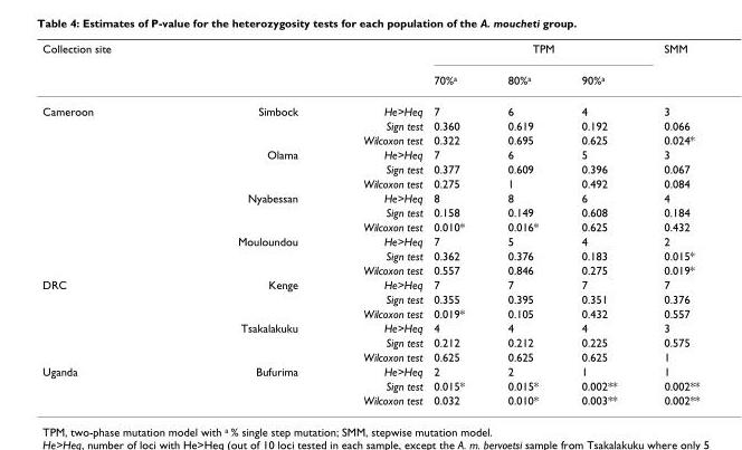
<table><thead><tr><td rowspan="2">Collection site</td><td rowspan="2"></td><td rowspan="2"></td><td colspan="3">TPM</td><td rowspan="2">SMM</td></tr><tr><td>70%<sup>a</sup></td><td>80%<sup>a</sup></td><td>90%<sup>a</sup></td></tr></thead><tbody><tr><td rowspan="12">Cameroon</td><td>Simbock</td><td>He&gt;Heq</td><td>7</td><td>6</td><td>4</td><td>3</td></tr><tr><td></td><td>Sign test</td><td>0.360</td><td>0.619</td><td>0.192</td><td>0.066</td></tr><tr><td></td><td>Wilcoxon test</td><td>0.322</td><td>0.695</td><td>0.625</td><td>0.024*</td></tr><tr><td>Olama</td><td>He&gt;Heq</td><td>7</td><td>6</td><td>5</td><td>3</td></tr><tr><td></td><td>Sign test</td><td>0.377</td><td>0.609</td><td>0.396</td><td>0.067</td></tr><tr><td></td><td>Wilcoxon test</td><td>0.275</td><td>1</td><td>0.492</td><td>0.084</td></tr><tr><td>Nyabessan</td><td>He&gt;Heq</td><td>8</td><td>8</td><td>6</td><td>4</td></tr><tr><td></td><td>Sign test</td><td>0.158</td><td>0.149</td><td>0.608</td><td>0.184</td></tr><tr><td></td><td>Wilcoxon test</td><td>0.010*</td><td>0.016*</td><td>0.625</td><td>0.432</td></tr><tr><td>Mouloundou</td><td>He&gt;Heq</td><td>7</td><td>5</td><td>4</td><td>2</td></tr><tr><td></td><td>Sign test</td><td>0.362</td><td>0.376</td><td>0.183</td><td>0.015*</td></tr><tr><td></td><td>Wilcoxon test</td><td>0.557</td><td>0.846</td><td>0.275</td><td>0.019*</td></tr><tr><td rowspan="6">DRC</td><td>Kenge</td><td>He&gt;Heq</td><td>7</td><td>7</td><td>7</td><td>7</td></tr><tr><td></td><td>Sign test</td><td>0.355</td><td>0.395</td><td>0.351</td><td>0.376</td></tr><tr><td></td><td>Wilcoxon test</td><td>0.019*</td><td>0.105</td><td>0.432</td><td>0.557</td></tr><tr><td>Tsakalakuku</td><td>He&gt;Heq</td><td>4</td><td>4</td><td>4</td><td>3</td></tr><tr><td></td><td>Sign test</td><td>0.212</td><td>0.212</td><td>0.225</td><td>0.575</td></tr><tr><td></td><td>Wilcoxon test</td><td>0.625</td><td>0.625</td><td>0.625</td><td>1</td></tr><tr><td rowspan="3">Uganda</td><td>Bufurima</td><td>He&gt;Heq</td><td>2</td><td>2</td><td>1</td><td>1</td></tr><tr><td></td><td>Sign test</td><td>0.015*</td><td>0.015*</td><td>0.002**</td><td>0.002**</td></tr><tr><td></td><td>Wilcoxon test</td><td>0.032</td><td>0.010*</td><td>0.003**</td><td>0.002**</td></tr></tbody></table>